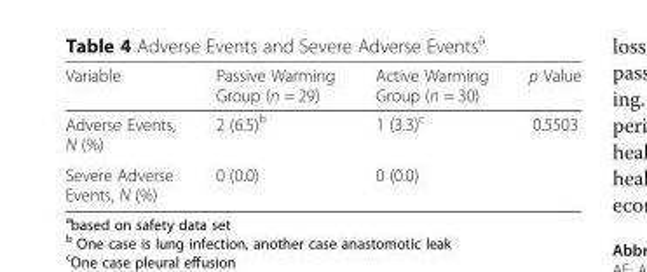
<table><thead><tr><td>Variable</td><td>Passive Warming Group (n = 29)</td><td>Active Warming Group (n = 30)</td><td>p Value</td></tr></thead><tbody><tr><td>Adverse Events, N (%)</td><td>2 (6.5)<sup>b</sup></td><td>1 (3.3)<sup>c</sup></td><td>0.5503</td></tr><tr><td>Severe Adverse Events, N (%)</td><td>0 (0.0)</td><td>0 (0.0)</td><td></td></tr></tbody></table>